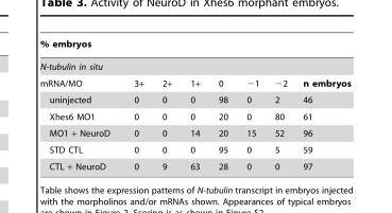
<table><thead><tr><td rowspan="2" colspan="8">% embryos N-tubulin in situ</td></tr><tr></tr><tr><td>mRNA/MO</td><td>3+</td><td>2+</td><td>1+</td><td>0</td><td>−1</td><td>−2</td><td>n embryos</td></tr></thead><tbody><tr><td>uninjected</td><td>0</td><td>0</td><td>0</td><td>98</td><td>0</td><td>2</td><td>46</td></tr><tr><td>Xhes6 MO1</td><td>0</td><td>0</td><td>0</td><td>20</td><td>0</td><td>80</td><td>61</td></tr><tr><td>MO1 + NeuroD</td><td>0</td><td>0</td><td>14</td><td>20</td><td>15</td><td>52</td><td>96</td></tr><tr><td>STD CTL</td><td>0</td><td>0</td><td>0</td><td>95</td><td>0</td><td>5</td><td>59</td></tr><tr><td>CTL + NeuroD</td><td>0</td><td>9</td><td>63</td><td>28</td><td>0</td><td>0</td><td>97</td></tr></tbody></table>